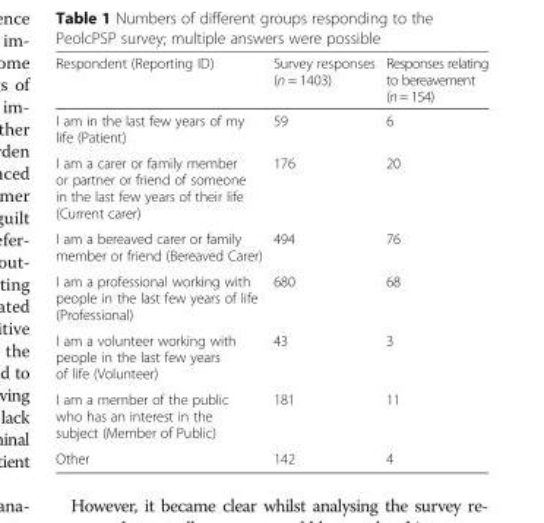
<table><thead><tr><td>Respondent (Reporting ID)</td><td>Survey responses (n = 1403)</td><td>Responses relating to bereavement (n = 154)</td></tr></thead><tbody><tr><td>I am in the last few years of my life (Patient)</td><td>59</td><td>6</td></tr><tr><td>I am a carer or family member or partner or friend of someone in the last few years of their life (Current carer)</td><td>176</td><td>20</td></tr><tr><td>I am a bereaved carer or family member or friend (Bereaved Carer)</td><td>494</td><td>76</td></tr><tr><td>I am a professional working with people in the last few years of life (Professional)</td><td>680</td><td>68</td></tr><tr><td>I am a volunteer working with people in the last few years of life (Volunteer)</td><td>43</td><td>3</td></tr><tr><td>I am a member of the public who has an interest in the subject (Member of Public)</td><td>181</td><td>11</td></tr><tr><td>Other</td><td>142</td><td>4</td></tr></tbody></table>